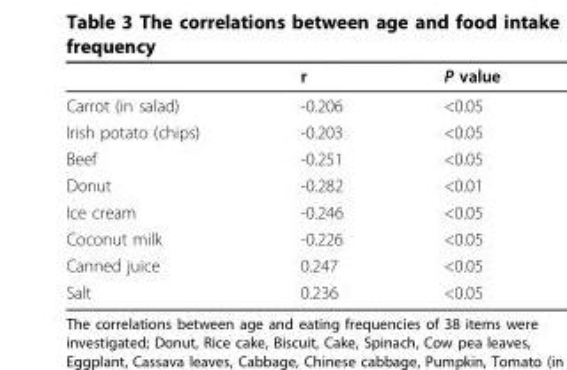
<table><thead><tr><td></td><td>r</td><td>P value</td></tr></thead><tbody><tr><td>Carrot (in salad)</td><td>-0.206</td><td>&lt;0.05</td></tr><tr><td>Irish potato (chips)</td><td>-0.203</td><td>&lt;0.05</td></tr><tr><td>Beef</td><td>-0.251</td><td>&lt;0.05</td></tr><tr><td>Donut</td><td>-0.282</td><td>&lt;0.01</td></tr><tr><td>Ice cream</td><td>-0.246</td><td>&lt;0.05</td></tr><tr><td>Coconut milk</td><td>-0.226</td><td>&lt;0.05</td></tr><tr><td>Canned juice</td><td>0.247</td><td>&lt;0.05</td></tr><tr><td>Salt</td><td>0.236</td><td>&lt;0.05</td></tr></tbody></table>